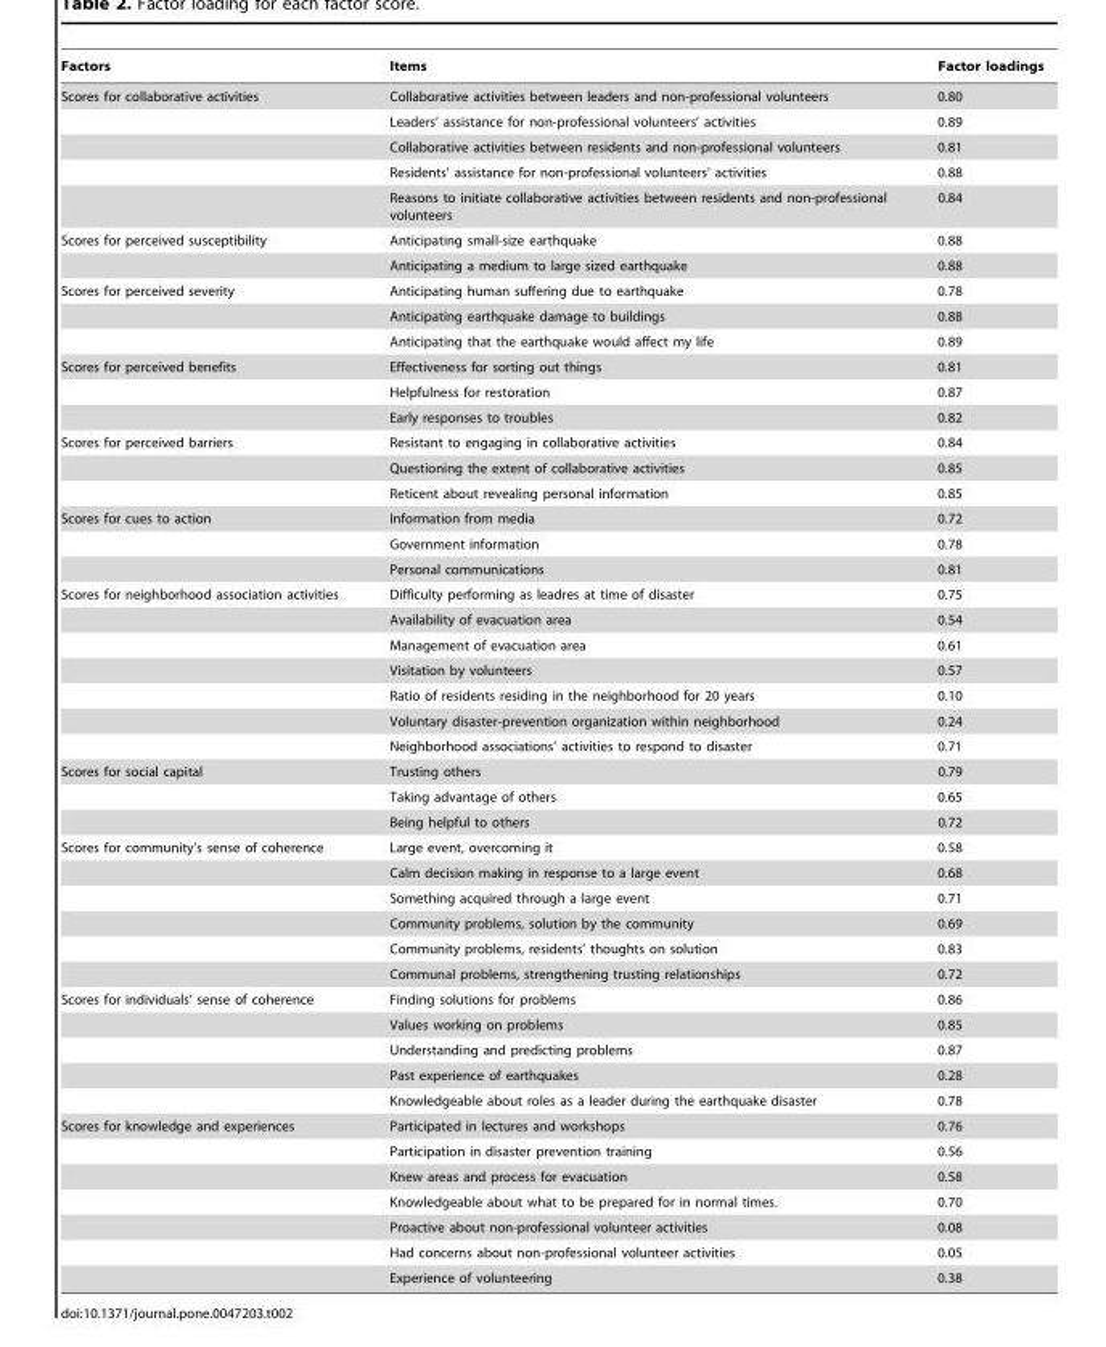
<table><thead><tr><td>Factors</td><td>Items</td><td>Factor loadings</td></tr></thead><tbody><tr><td rowspan="5">Scores for collaborative activities</td><td>Collaborative activities between leaders and non-professional volunteers</td><td>0.80</td></tr><tr><td>Leaders’ assistance for non-professional volunteers’ activities</td><td>0.89</td></tr><tr><td>Collaborative activities between residents and non-professional volunteers</td><td>0.81</td></tr><tr><td>Residents’ assistance for non-professional volunteers’ activities</td><td>0.88</td></tr><tr><td>Reasons to initiate collaborative activities between residents and non-professional volunteers</td><td>0.84</td></tr><tr><td rowspan="2">Scores for perceived susceptibility</td><td>Anticipating small-size earthquake</td><td>0.88</td></tr><tr><td>Anticipating a medium to large sized earthquake</td><td>0.88</td></tr><tr><td rowspan="3">Scores for perceived severity</td><td>Anticipating human suffering due to earthquake</td><td>0.78</td></tr><tr><td>Anticipating earthquake damage to buildings</td><td>0.88</td></tr><tr><td>Anticipating that the earthquake would affect my life</td><td>0.89</td></tr><tr><td rowspan="3">Scores for perceived benefits</td><td>Effectiveness for sorting out things</td><td>0.81</td></tr><tr><td>Helpfulness for restoration</td><td>0.87</td></tr><tr><td>Early responses to troubles</td><td>0.82</td></tr><tr><td rowspan="3">Scores for perceived barriers</td><td>Resistant to engaging in collaborative activities</td><td>0.84</td></tr><tr><td>Questioning the extent of collaborative activities</td><td>0.85</td></tr><tr><td>Reticent about revealing personal information</td><td>0.85</td></tr><tr><td rowspan="3">Scores for cues to action</td><td>Information from media</td><td>0.72</td></tr><tr><td>Government information</td><td>0.78</td></tr><tr><td>Personal communications</td><td>0.81</td></tr><tr><td rowspan="7">Scores for neighborhood association activities</td><td>Difficulty performing as leadres at time of disaster</td><td>0.75</td></tr><tr><td>Availability of evacuation area</td><td>0.54</td></tr><tr><td>Management of evacuation area</td><td>0.61</td></tr><tr><td>Visitation by volunteers</td><td>0.57</td></tr><tr><td>Ratio of residents residing in the neighborhood for 20 years</td><td>0.10</td></tr><tr><td>Voluntary disaster-prevention organization within neighborhood</td><td>0.24</td></tr><tr><td>Neighborhood associations’ activities to respond to disaster</td><td>0.71</td></tr><tr><td rowspan="3">Scores for social capital</td><td>Trusting others</td><td>0.79</td></tr><tr><td>Taking advantage of others</td><td>0.65</td></tr><tr><td>Being helpful to others</td><td>0.72</td></tr><tr><td rowspan="6">Scores for community’s sense of coherence</td><td>Large event, overcoming it</td><td>0.58</td></tr><tr><td>Calm decision making in response to a large event</td><td>0.68</td></tr><tr><td>Something acquired through a large event</td><td>0.71</td></tr><tr><td>Community problems, solution by the community</td><td>0.69</td></tr><tr><td>Community problems, residents’ thoughts on solution</td><td>0.83</td></tr><tr><td>Communal problems, strengthening trusting relationships</td><td>0.72</td></tr><tr><td rowspan="5">Scores for individuals’ sense of coherence</td><td>Finding solutions for problems</td><td>0.86</td></tr><tr><td>Values working on problems</td><td>0.85</td></tr><tr><td>Understanding and predicting problems</td><td>0.87</td></tr><tr><td>Past experience of earthquakes</td><td>0.28</td></tr><tr><td>Knowledgeable about roles as a leader during the earthquake disaster</td><td>0.78</td></tr><tr><td rowspan="7">Scores for knowledge and experiences</td><td>Participated in lectures and workshops</td><td>0.76</td></tr><tr><td>Participation in disaster prevention training</td><td>0.56</td></tr><tr><td>Knew areas and process for evacuation</td><td>0.58</td></tr><tr><td>Knowledgeable about what to be prepared for in normal times.</td><td>0.70</td></tr><tr><td>Proactive about non-professional volunteer activities</td><td>0.08</td></tr><tr><td>Had concerns about non-professional volunteer activities</td><td>0.05</td></tr><tr><td>Experience of volunteering</td><td>0.38</td></tr></tbody></table>